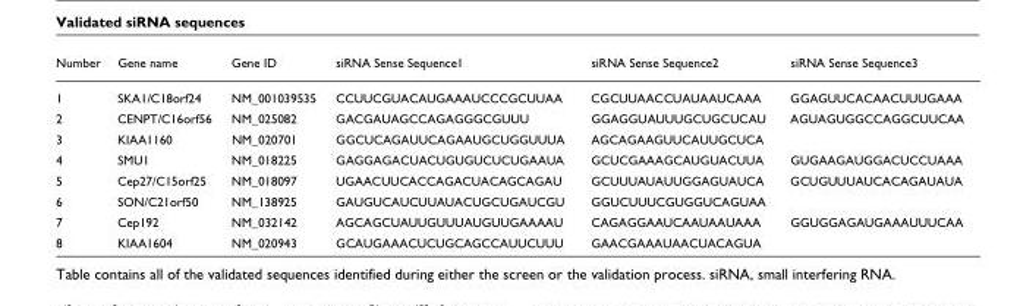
<table><thead><tr><td>Number</td><td>Gene name</td><td>Gene ID</td><td>siRNA Sense Sequence1</td><td>siRNA Sense Sequence2</td><td>siRNA Sense Sequence3</td></tr></thead><tbody><tr><td>1</td><td>SKA1/C18orf24</td><td>NM_001039535</td><td>CCUUCGUACAUGAAAUCCCGCUUAA</td><td>CGCUUAACCUAUAAUCAAA</td><td>GGAGUUCACAACUUUGAAA</td></tr><tr><td>2</td><td>CENPT/C16orf56</td><td>NM_025082</td><td>GACGAUAGCCAGAGGGCGUUU</td><td>GGAGGUAUUUGCUGCUCAU</td><td>AGUAGUGGCCAGGCUUCAA</td></tr><tr><td>3</td><td>KIAA1160</td><td>NM_020701</td><td>GGCUCAGAUUCAGAAUGCUGGUUUA</td><td>AGCAGAAGUUCAUUGCUCA</td><td></td></tr><tr><td>4</td><td>SMU1</td><td>NM_018225</td><td>GAGGAGACUACUGUGUCUCUGAAUA</td><td>GCUCGAAAGCAUGUACUUA</td><td>GUGAAGAUGGACUCCUAAA</td></tr><tr><td>5</td><td>Cep27/C15orf25</td><td>NM_018097</td><td>UGAACUUCACCAGACUACAGCAGAU</td><td>GCUUUAUAUUGGAGUAUCA</td><td>GCUGUUUAUCACAGAUAUA</td></tr><tr><td>6</td><td>SON/C21orf50</td><td>NM_138925</td><td>GAUGUCAUCUUAUACUGCUGAUCGU</td><td>GGUCUUUCGUGGUCAGUAA</td><td></td></tr><tr><td>7</td><td>Cep192</td><td>NM_032142</td><td>AGCAGCUAUUGUUUAUGUUGAAAAU</td><td>CAGAGGAAUCAAUAAUAAA</td><td>GGUGGAGAUGAAAUUUCAA</td></tr><tr><td>8</td><td>KIAA1604</td><td>NM_020943</td><td>GCAUGAAACUCUGCAGCCAUUCUUU</td><td>GAACGAAAUAACUACAGUA</td><td></td></tr></tbody></table>